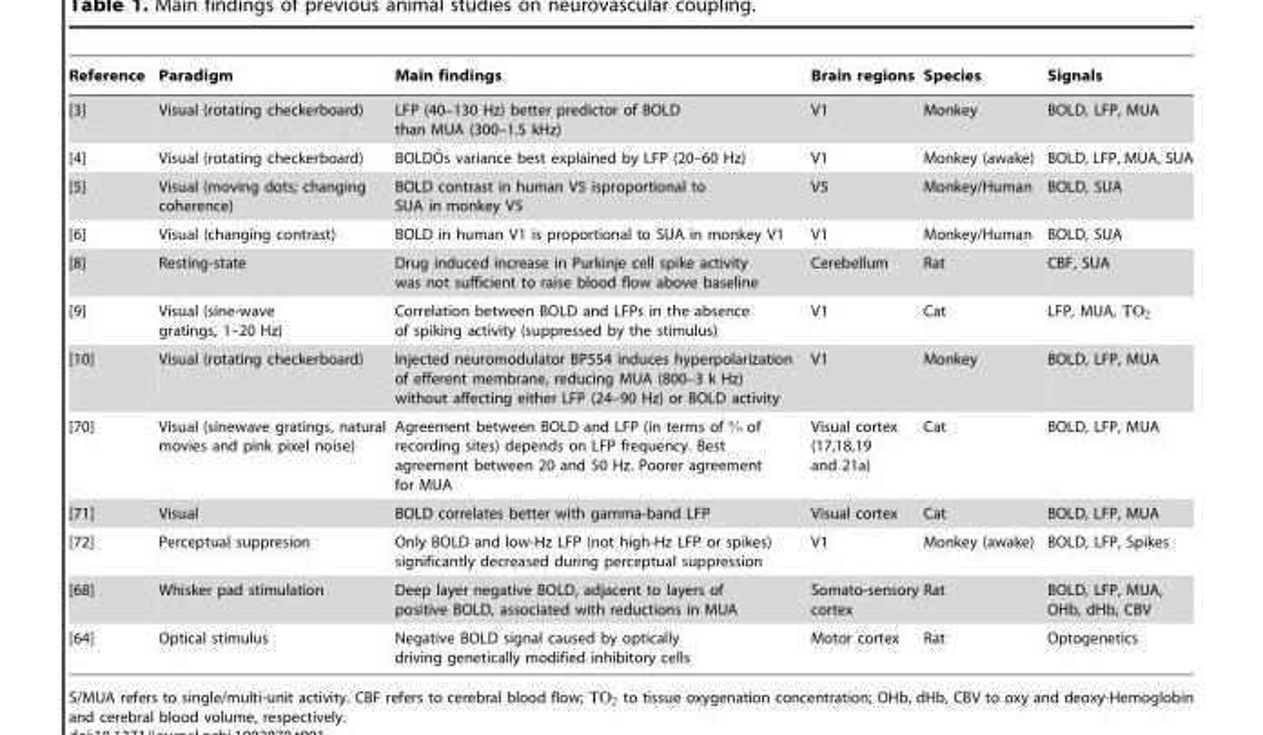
<table><thead><tr><td>Reference</td><td>Paradigm</td><td>Main findings</td><td>Brain regions</td><td>Species</td><td>Signals</td></tr></thead><tbody><tr><td>[3]</td><td>Visual (rotating checkerboard)</td><td>LFP (40–130 Hz) better predictor of BOLD than MUA (300–1.5 kHz)</td><td>V1</td><td>Monkey</td><td>BOLD, LFP, MUA</td></tr><tr><td>[4]</td><td>Visual (rotating checkerboard)</td><td>BOLDO˜ s variance best explained by LFP (20–60 Hz)</td><td>V1</td><td>Monkey (awake)</td><td>BOLD, LFP, MUA, SUA</td></tr><tr><td>[5]</td><td>Visual (moving dots; changing coherence)</td><td>BOLD contrast in human V5 isproportional to SUA in monkey V5</td><td>V5</td><td>Monkey/Human</td><td>BOLD, SUA</td></tr><tr><td>[6]</td><td>Visual (changing contrast)</td><td>BOLD in human V1 is proportional to SUA in monkey V1</td><td>V1</td><td>Monkey/Human</td><td>BOLD, SUA</td></tr><tr><td>[8]</td><td>Resting-state</td><td>Drug induced increase in Purkinje cell spike activity was not sufficient to raise blood flow above baseline</td><td>Cerebellum</td><td>Rat</td><td>CBF, SUA</td></tr><tr><td>[9]</td><td>Visual (sine-wave gratings, 1–20 Hz)</td><td>Correlation between BOLD and LFPs in the absence of spiking activity (suppressed by the stimulus)</td><td>V1</td><td>Cat</td><td>LFP, MUA, TO2</td></tr><tr><td>[10]</td><td>Visual (rotating checkerboard)</td><td>Injected neuromodulator BP554 induces hyperpolarization of efferent membrane, reducing MUA (800–3 k Hz) without affecting either LFP (24–90 Hz) or BOLD activity</td><td>V1</td><td>Monkey</td><td>BOLD, LFP, MUA</td></tr><tr><td>[70]</td><td>Visual (sinewave gratings, natural movies and pink pixel noise)</td><td>Agreement between BOLD and LFP (in terms of % of recording sites) depends on LFP frequency. Best agreement between 20 and 50 Hz. Poorer agreement for MUA</td><td>Visual cortex (17,18,19 and 21a)</td><td>Cat</td><td>BOLD, LFP, MUA</td></tr><tr><td>[71]</td><td>Visual</td><td>BOLD correlates better with gamma-band LFP</td><td>Visual cortex</td><td>Cat</td><td>BOLD, LFP, MUA</td></tr><tr><td>[72]</td><td>Perceptual suppresion</td><td>Only BOLD and low-Hz LFP (not high-Hz LFP or spikes) significantly decreased during perceptual suppression</td><td>V1</td><td>Monkey (awake)</td><td>BOLD, LFP, Spikes</td></tr><tr><td>[68]</td><td>Whisker pad stimulation</td><td>Deep layer negative BOLD, adjacent to layers of positive BOLD, associated with reductions in MUA</td><td>Somato-sensory cortex</td><td>Rat</td><td>BOLD, LFP, MUA, OHb, dHb, CBV</td></tr><tr><td>[64]</td><td>Optical stimulus</td><td>Negative BOLD signal caused by optically driving genetically modified inhibitory cells</td><td>Motor cortex</td><td>Rat</td><td>Optogenetics</td></tr></tbody></table>